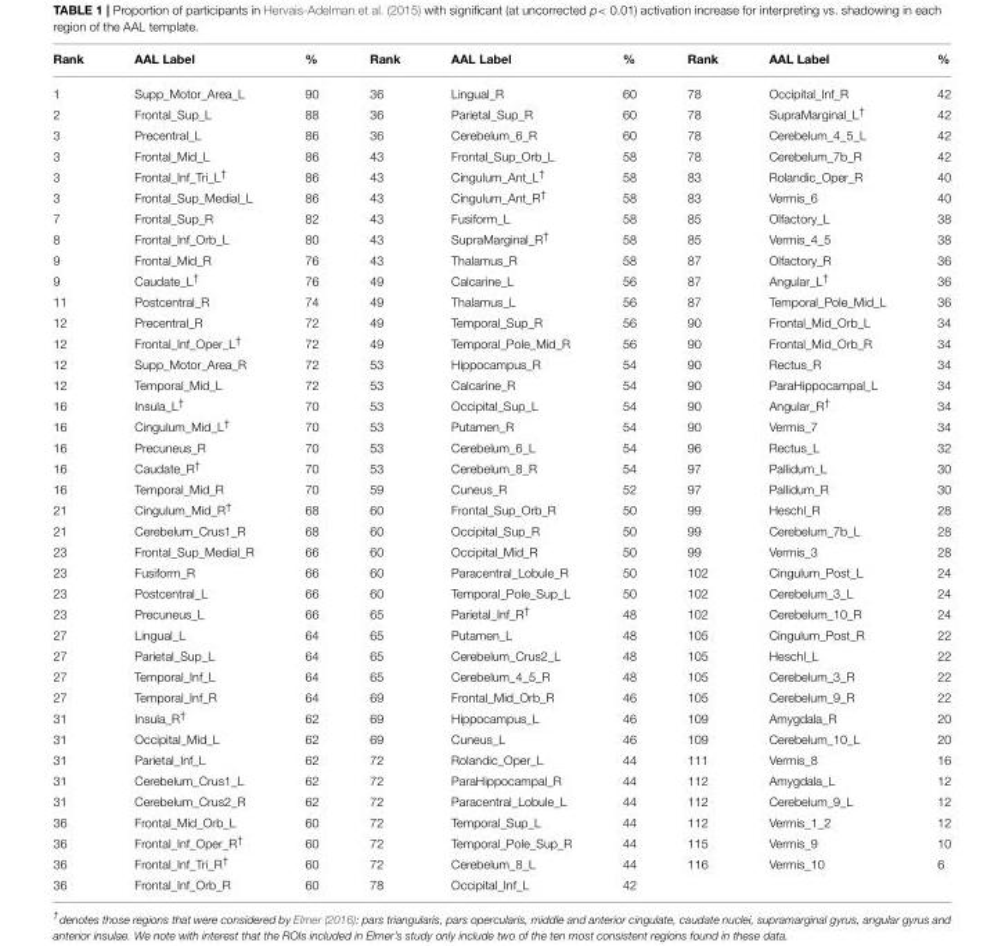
<table><thead><tr><td>Rank</td><td>AAL Label</td><td>%</td><td>Rank</td><td>AAL Label</td><td>%</td><td>Rank</td><td>AAL Label</td><td>%</td></tr></thead><tbody><tr><td>1</td><td>Supp_Motor_Area_L</td><td>90</td><td>36</td><td>Lingual_R</td><td>60</td><td>78</td><td>Occipital_Inf_R</td><td>42</td></tr><tr><td>2</td><td>Frontal_Sup_L</td><td>88</td><td>36</td><td>Parietal_Sup_R</td><td>60</td><td>78</td><td>SupraMarginal_L<sup>†</sup></td><td>42</td></tr><tr><td>3</td><td>Precentral_L</td><td>86</td><td>36</td><td>Cerebelum_6_R</td><td>60</td><td>78</td><td>Cerebelum_4_5_L</td><td>42</td></tr><tr><td>3</td><td>Frontal_Mid_L</td><td>86</td><td>43</td><td>Frontal_Sup_Orb_L</td><td>58</td><td>78</td><td>Cerebelum_7b_R</td><td>42</td></tr><tr><td>3</td><td>Frontal_Inf_Tri_L<sup>†</sup></td><td>86</td><td>43</td><td>Cingulum_Ant_L<sup>†</sup></td><td>58</td><td>83</td><td>Rolandic_Oper_R</td><td>40</td></tr><tr><td>3</td><td>Frontal_Sup_Medial_L</td><td>86</td><td>43</td><td>Cingulum_Ant_R<sup>†</sup></td><td>58</td><td>83</td><td>Vermis_6</td><td>40</td></tr><tr><td>7</td><td>Frontal_Sup_R</td><td>82</td><td>43</td><td>Fusiform_L</td><td>58</td><td>85</td><td>Olfactory_L</td><td>38</td></tr><tr><td>8</td><td>Frontal_Inf_Orb_L</td><td>80</td><td>43</td><td>SupraMarginal_R<sup>†</sup></td><td>58</td><td>85</td><td>Vermis_4_5</td><td>38</td></tr><tr><td>9</td><td>Frontal_Mid_R</td><td>76</td><td>43</td><td>Thalamus_R</td><td>58</td><td>87</td><td>Olfactory_R</td><td>36</td></tr><tr><td>9</td><td>Caudate_L<sup>†</sup></td><td>76</td><td>49</td><td>Calcarine_L</td><td>56</td><td>87</td><td>Angular_L<sup>†</sup></td><td>36</td></tr><tr><td>11</td><td>Postcentral_R</td><td>74</td><td>49</td><td>Thalamus_L</td><td>56</td><td>87</td><td>Temporal_Pole_Mid_L</td><td>36</td></tr><tr><td>12</td><td>Precentral_R</td><td>72</td><td>49</td><td>Temporal_Sup_R</td><td>56</td><td>90</td><td>Frontal_Mid_Orb_L</td><td>34</td></tr><tr><td>12</td><td>Frontal_Inf_Oper_L<sup>†</sup></td><td>72</td><td>49</td><td>Temporal_Pole_Mid_R</td><td>56</td><td>90</td><td>Frontal_Mid_Orb_R</td><td>34</td></tr><tr><td>12</td><td>Supp_Motor_Area_R</td><td>72</td><td>53</td><td>Hippocampus_R</td><td>54</td><td>90</td><td>Rectus_R</td><td>34</td></tr><tr><td>12</td><td>Temporal_Mid_L</td><td>72</td><td>53</td><td>Calcarine_R</td><td>54</td><td>90</td><td>ParaHippocampal_L</td><td>34</td></tr><tr><td>16</td><td>Insula_L<sup>†</sup></td><td>70</td><td>53</td><td>Occipital_Sup_L</td><td>54</td><td>90</td><td>Angular_R<sup>†</sup></td><td>34</td></tr><tr><td>16</td><td>Cingulum_Mid_L<sup>†</sup></td><td>70</td><td>53</td><td>Putamen_R</td><td>54</td><td>90</td><td>Vermis_7</td><td>34</td></tr><tr><td>16</td><td>Precuneus_R</td><td>70</td><td>53</td><td>Cerebelum_6_L</td><td>54</td><td>96</td><td>Rectus_L</td><td>32</td></tr><tr><td>16</td><td>Caudate_R<sup>†</sup></td><td>70</td><td>53</td><td>Cerebelum_8_R</td><td>54</td><td>97</td><td>Pallidum_L</td><td>30</td></tr><tr><td>16</td><td>Temporal_Mid_R</td><td>70</td><td>59</td><td>Cuneus_R</td><td>52</td><td>97</td><td>Pallidum_R</td><td>30</td></tr><tr><td>21</td><td>Cingulum_Mid_R<sup>†</sup></td><td>68</td><td>60</td><td>Frontal_Sup_Orb_R</td><td>50</td><td>99</td><td>Heschl_R</td><td>28</td></tr><tr><td>21</td><td>Cerebelum_Crus1_R</td><td>68</td><td>60</td><td>Occipital_Sup_R</td><td>50</td><td>99</td><td>Cerebelum_7b_L</td><td>28</td></tr><tr><td>23</td><td>Frontal_Sup_Medial_R</td><td>66</td><td>60</td><td>Occipital_Mid_R</td><td>50</td><td>99</td><td>Vermis_3</td><td>28</td></tr><tr><td>23</td><td>Fusiform_R</td><td>66</td><td>60</td><td>Paracentral_Lobule_R</td><td>50</td><td>102</td><td>Cingulum_Post_L</td><td>24</td></tr><tr><td>23</td><td>Postcentral_L</td><td>66</td><td>60</td><td>Temporal_Pole_Sup_L</td><td>50</td><td>102</td><td>Cerebelum_3_L</td><td>24</td></tr><tr><td>23</td><td>Precuneus_L</td><td>66</td><td>65</td><td>Parietal_Inf_R<sup>†</sup></td><td>48</td><td>102</td><td>Cerebelum_10_R</td><td>24</td></tr><tr><td>27</td><td>Lingual_L</td><td>64</td><td>65</td><td>Putamen_L</td><td>48</td><td>105</td><td>Cingulum_Post_R</td><td>22</td></tr><tr><td>27</td><td>Parietal_Sup_L</td><td>64</td><td>65</td><td>Cerebelum_Crus2_L</td><td>48</td><td>105</td><td>Heschl_L</td><td>22</td></tr><tr><td>27</td><td>Temporal_Inf_L</td><td>64</td><td>65</td><td>Cerebelum_4_5_R</td><td>48</td><td>105</td><td>Cerebelum_3_R</td><td>22</td></tr><tr><td>27</td><td>Temporal_Inf_R</td><td>64</td><td>69</td><td>Frontal_Mid_Orb_R</td><td>46</td><td>105</td><td>Cerebelum_9_R</td><td>22</td></tr><tr><td>31</td><td>Insula_R<sup>†</sup></td><td>62</td><td>69</td><td>Hippocampus_L</td><td>46</td><td>109</td><td>Amygdala_R</td><td>20</td></tr><tr><td>31</td><td>Occipital_Mid_L</td><td>62</td><td>69</td><td>Cuneus_L</td><td>46</td><td>109</td><td>Cerebelum_10_L</td><td>20</td></tr><tr><td>31</td><td>Parietal_Inf_L</td><td>62</td><td>72</td><td>Rolandic_Oper_L</td><td>44</td><td>111</td><td>Vermis_8</td><td>16</td></tr><tr><td>31</td><td>Cerebelum_Crus1_L</td><td>62</td><td>72</td><td>ParaHippocampal_R</td><td>44</td><td>112</td><td>Amygdala_L</td><td>12</td></tr><tr><td>31</td><td>Cerebelum_Crus2_R</td><td>62</td><td>72</td><td>Paracentral_Lobule_L</td><td>44</td><td>112</td><td>Cerebelum_9_L</td><td>12</td></tr><tr><td>36</td><td>Frontal_Mid_Orb_L</td><td>60</td><td>72</td><td>Temporal_Sup_L</td><td>44</td><td>112</td><td>Vermis_1_2</td><td>12</td></tr><tr><td>36</td><td>Frontal_Inf_Oper_R<sup>†</sup></td><td>60</td><td>72</td><td>Temporal_Pole_Sup_R</td><td>44</td><td>115</td><td>Vermis_9</td><td>10</td></tr><tr><td>36</td><td>Frontal_Inf_Tri_R<sup>†</sup></td><td>60</td><td>72</td><td>Cerebelum_8_L</td><td>44</td><td>116</td><td>Vermis_10</td><td>6</td></tr><tr><td>36</td><td>Frontal_Inf_Orb_R</td><td>60</td><td>78</td><td>Occipital_Inf_L</td><td>42</td><td></td><td></td><td></td></tr></tbody></table>